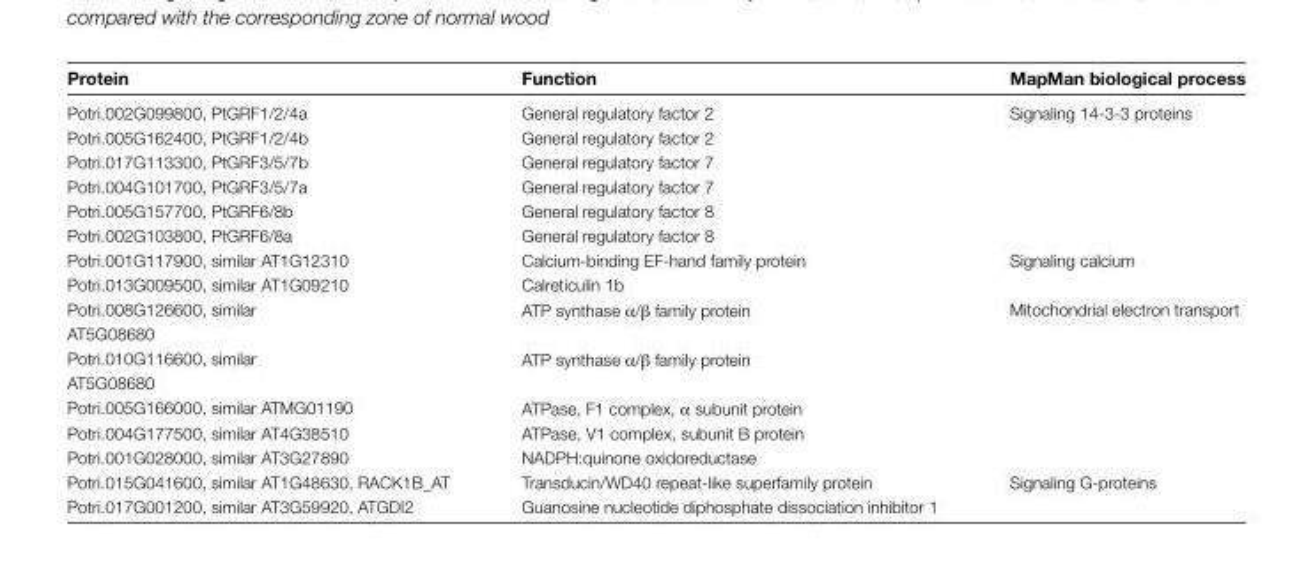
<table><thead><tr><td>Protein</td><td>Function</td><td>MapMan biological process</td></tr></thead><tbody><tr><td>Potri.002G099800, PtGRF1/2/4a</td><td>General regulatory factor 2</td><td>Signaling 14-3-3 proteins</td></tr><tr><td>Potri.005G162400, PtGRF1/2/4b</td><td>General regulatory factor 2</td><td></td></tr><tr><td>Potri.017G113300, PtGRF3/5/7b</td><td>General regulatory factor 7</td><td></td></tr><tr><td>Potri.004G101700, PtGRF3/5/7a</td><td>General regulatory factor 7</td><td></td></tr><tr><td>Potri.005G157700, PtGRF6/8b</td><td>General regulatory factor 8</td><td></td></tr><tr><td>Potri.002G103800, PtGRF6/8a</td><td>General regulatory factor 8</td><td></td></tr><tr><td>Potri.001G117900, similar AT1G12310</td><td>Calcium-binding EF-hand family protein</td><td>Signaling calcium</td></tr><tr><td>Potri.013G009500, similar AT1G09210</td><td>Calreticulin 1b</td><td></td></tr><tr><td>Potri.008G126600, similar AT5G08680</td><td>ATP synthase α/β family protein</td><td>Mitochondrial electron transport</td></tr><tr><td>Potri.010G116600, similar AT5G08680</td><td>ATP synthase α/β family protein</td><td></td></tr><tr><td>Potri.005G166000, similar ATMG01190</td><td>ATPase, F1 complex, α subunit protein</td><td></td></tr><tr><td>Potri.004G177500, similar AT4G38510</td><td>ATPase, V1 complex, subunit B protein</td><td></td></tr><tr><td>Potri.001G028000, similar AT3G27890</td><td>NADPH:quinone oxidoreductase</td><td></td></tr><tr><td>Potri.015G041600, similar AT1G48630, RACK1B_AT</td><td>Transducin/WD40 repeat-like superfamily protein</td><td>Signaling G-proteins</td></tr><tr><td>Potri.017G001200, similar AT3G59920, ATGDI2</td><td>Guanosine nucleotide diphosphate dissociation inhibitor 1</td><td></td></tr></tbody></table>